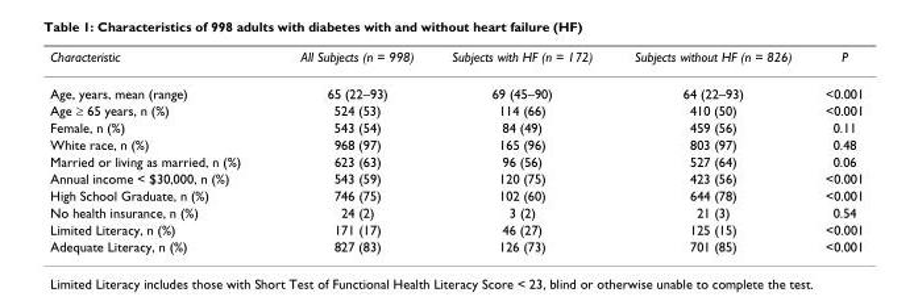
<table><thead><tr><td>Characteristic</td><td>All Subjects (n = 998)</td><td>Subjects with HF (n = 172)</td><td>Subjects without HF (n = 826)</td><td>P</td></tr></thead><tbody><tr><td>Age, years, mean (range)</td><td>65 (22–93)</td><td>69 (45–90)</td><td>64 (22–93)</td><td>&lt;0.001</td></tr><tr><td>Age ≥ 65 years, n (%)</td><td>524 (53)</td><td>114 (66)</td><td>410 (50)</td><td>&lt;0.001</td></tr><tr><td>Female, n (%)</td><td>543 (54)</td><td>84 (49)</td><td>459 (56)</td><td>0.11</td></tr><tr><td>White race, n (%)</td><td>968 (97)</td><td>165 (96)</td><td>803 (97)</td><td>0.48</td></tr><tr><td>Married or living as married, n (%)</td><td>623 (63)</td><td>96 (56)</td><td>527 (64)</td><td>0.06</td></tr><tr><td>Annual income &lt; $30,000, n (%)</td><td>543 (59)</td><td>120 (75)</td><td>423 (56)</td><td>&lt;0.001</td></tr><tr><td>High School Graduate, n (%)</td><td>746 (75)</td><td>102 (60)</td><td>644 (78)</td><td>&lt;0.001</td></tr><tr><td>No health insurance, n (%)</td><td>24 (2)</td><td>3 (2)</td><td>21 (3)</td><td>0.54</td></tr><tr><td>Limited Literacy, n (%)</td><td>171 (17)</td><td>46 (27)</td><td>125 (15)</td><td>&lt;0.001</td></tr><tr><td>Adequate Literacy, n (%)</td><td>827 (83)</td><td>126 (73)</td><td>701 (85)</td><td>&lt;0.001</td></tr></tbody></table>